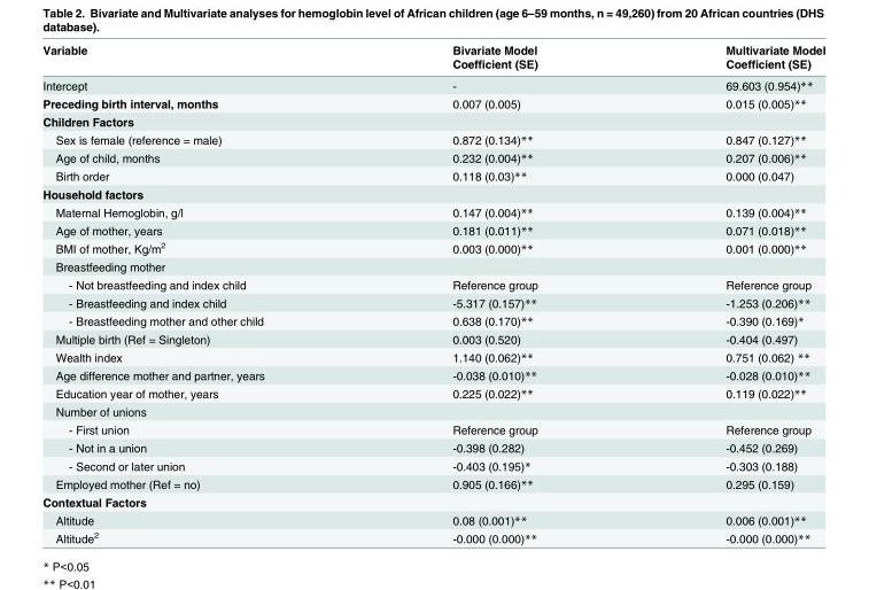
<table><thead><tr><td rowspan="2">Variable</td><td rowspan="2">Bivariate Model Coefficient (SE)</td><td rowspan="2">Multivariate Model Coefficient (SE)</td></tr><tr></tr></thead><tbody><tr><td>Intercept</td><td>-</td><td>69.603 (0.954)**</td></tr><tr><td>Preceding birth interval, months</td><td>0.007 (0.005)</td><td>0.015 (0.005)**</td></tr><tr><td colspan="3">Children Factors</td></tr><tr><td>Sex is female (reference = male)</td><td>0.872 (0.134)**</td><td>0.847 (0.127)**</td></tr><tr><td>Age of child, months</td><td>0.232 (0.004)**</td><td>0.207 (0.006)**</td></tr><tr><td>Birth order</td><td>0.118 (0.03)**</td><td>0.000 (0.047)</td></tr><tr><td colspan="3">Household factors</td></tr><tr><td>Maternal Hemoglobin, g/l</td><td>0.147 (0.004)**</td><td>0.139 (0.004)**</td></tr><tr><td>Age of mother, years</td><td>0.181 (0.011)**</td><td>0.071 (0.018)**</td></tr><tr><td>BMI of mother, Kg/m<sup>2</sup></td><td>0.003 (0.000)**</td><td>0.001 (0.000)**</td></tr><tr><td colspan="3">Breastfeeding mother</td></tr><tr><td>- Not breastfeeding and index child</td><td>Reference group</td><td>Reference group</td></tr><tr><td>- Breastfeeding and index child</td><td>-5.317 (0.157)**</td><td>-1.253 (0.206)**</td></tr><tr><td>- Breastfeeding mother and other child</td><td>0.638 (0.170)**</td><td>-0.390 (0.169)*</td></tr><tr><td>Multiple birth (Ref = Singleton)</td><td>0.003 (0.520)</td><td>-0.404 (0.497)</td></tr><tr><td>Wealth index</td><td>1.140 (0.062)**</td><td>0.751 (0.062) **</td></tr><tr><td>Age difference mother and partner, years</td><td>-0.038 (0.010)**</td><td>-0.028 (0.010)**</td></tr><tr><td>Education year of mother, years</td><td>0.225 (0.022)**</td><td>0.119 (0.022)**</td></tr><tr><td colspan="3">Number of unions</td></tr><tr><td>- First union</td><td>Reference group</td><td>Reference group</td></tr><tr><td>- Not in a union</td><td>-0.398 (0.282)</td><td>-0.452 (0.269)</td></tr><tr><td>- Second or later union</td><td>-0.403 (0.195)*</td><td>-0.303 (0.188)</td></tr><tr><td>Employed mother (Ref = no)</td><td>0.905 (0.166)**</td><td>0.295 (0.159)</td></tr><tr><td colspan="3">Contextual Factors</td></tr><tr><td>Altitude</td><td>0.08 (0.001)**</td><td>0.006 (0.001)**</td></tr><tr><td>Altitude<sup>2</sup></td><td>-0.000 (0.000)**</td><td>-0.000 (0.000)**</td></tr></tbody></table>